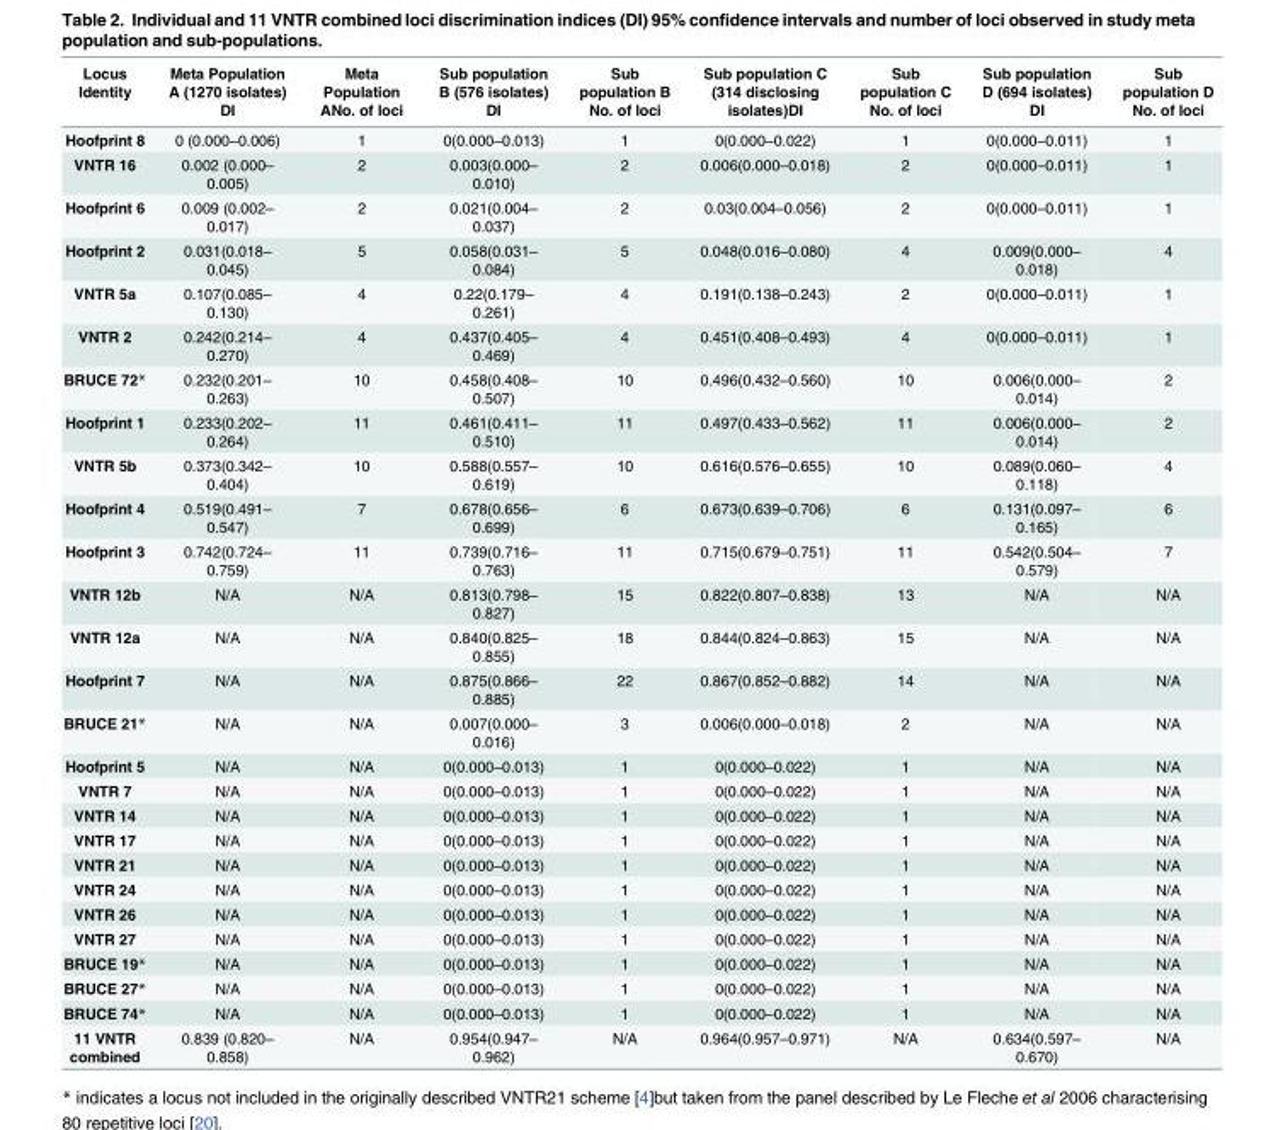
<table><thead><tr><td>Locus Identity</td><td>Meta Population A (1270 isolates) DI</td><td>Meta Population ANo. of loci</td><td>Sub population B (576 isolates) DI</td><td>Sub population B No. of loci</td><td>Sub population C (314 disclosing isolates)DI</td><td>Sub population C No. of loci</td><td>Sub population D (694 isolates) DI</td><td>Sub population D No. of loci</td></tr></thead><tbody><tr><td>Hoofprint 8</td><td>0 (0.000–0.006)</td><td>1</td><td>0(0.000–0.013)</td><td>1</td><td>0(0.000–0.022)</td><td>1</td><td>0(0.000–0.011)</td><td>1</td></tr><tr><td>VNTR 16</td><td>0.002 (0.000– 0.005)</td><td>2</td><td>0.003(0.000– 0.010)</td><td>2</td><td>0.006(0.000–0.018)</td><td>2</td><td>0(0.000–0.011)</td><td>1</td></tr><tr><td>Hoofprint 6</td><td>0.009 (0.002– 0.017)</td><td>2</td><td>0.021(0.004– 0.037)</td><td>2</td><td>0.03(0.004–0.056)</td><td>2</td><td>0(0.000–0.011)</td><td>1</td></tr><tr><td>Hoofprint 2</td><td>0.031(0.018– 0.045)</td><td>5</td><td>0.058(0.031– 0.084)</td><td>5</td><td>0.048(0.016–0.080)</td><td>4</td><td>0.009(0.000– 0.018)</td><td>4</td></tr><tr><td>VNTR 5a</td><td>0.107(0.085– 0.130)</td><td>4</td><td>0.22(0.179– 0.261)</td><td>4</td><td>0.191(0.138–0.243)</td><td>2</td><td>0(0.000–0.011)</td><td>1</td></tr><tr><td>VNTR 2</td><td>0.242(0.214– 0.270)</td><td>4</td><td>0.437(0.405– 0.469)</td><td>4</td><td>0.451(0.408–0.493)</td><td>4</td><td>0(0.000–0.011)</td><td>1</td></tr><tr><td>BRUCE 72*</td><td>0.232(0.201– 0.263)</td><td>10</td><td>0.458(0.408– 0.507)</td><td>10</td><td>0.496(0.432–0.560)</td><td>10</td><td>0.006(0.000– 0.014)</td><td>2</td></tr><tr><td>Hoofprint 1</td><td>0.233(0.202– 0.264)</td><td>11</td><td>0.461(0.411– 0.510)</td><td>11</td><td>0.497(0.433–0.562)</td><td>11</td><td>0.006(0.000– 0.014)</td><td>2</td></tr><tr><td>VNTR 5b</td><td>0.373(0.342– 0.404)</td><td>10</td><td>0.588(0.557– 0.619)</td><td>10</td><td>0.616(0.576–0.655)</td><td>10</td><td>0.089(0.060– 0.118)</td><td>4</td></tr><tr><td>Hoofprint 4</td><td>0.519(0.491– 0.547)</td><td>7</td><td>0.678(0.656– 0.699)</td><td>6</td><td>0.673(0.639–0.706)</td><td>6</td><td>0.131(0.097– 0.165)</td><td>6</td></tr><tr><td>Hoofprint 3</td><td>0.742(0.724– 0.759)</td><td>11</td><td>0.739(0.716– 0.763)</td><td>11</td><td>0.715(0.679–0.751)</td><td>11</td><td>0.542(0.504– 0.579)</td><td>7</td></tr><tr><td>VNTR 12b</td><td>N/A</td><td>N/A</td><td>0.813(0.798– 0.827)</td><td>15</td><td>0.822(0.807–0.838)</td><td>13</td><td>N/A</td><td>N/A</td></tr><tr><td>VNTR 12a</td><td>N/A</td><td>N/A</td><td>0.840(0.825– 0.855)</td><td>18</td><td>0.844(0.824–0.863)</td><td>15</td><td>N/A</td><td>N/A</td></tr><tr><td>Hoofprint 7</td><td>N/A</td><td>N/A</td><td>0.875(0.866– 0.885)</td><td>22</td><td>0.867(0.852–0.882)</td><td>14</td><td>N/A</td><td>N/A</td></tr><tr><td>BRUCE 21*</td><td>N/A</td><td>N/A</td><td>0.007(0.000– 0.016)</td><td>3</td><td>0.006(0.000–0.018)</td><td>2</td><td>N/A</td><td>N/A</td></tr><tr><td>Hoofprint 5</td><td>N/A</td><td>N/A</td><td>0(0.000–0.013)</td><td>1</td><td>0(0.000–0.022)</td><td>1</td><td>N/A</td><td>N/A</td></tr><tr><td>VNTR 7</td><td>N/A</td><td>N/A</td><td>0(0.000–0.013)</td><td>1</td><td>0(0.000–0.022)</td><td>1</td><td>N/A</td><td>N/A</td></tr><tr><td>VNTR 14</td><td>N/A</td><td>N/A</td><td>0(0.000–0.013)</td><td>1</td><td>0(0.000–0.022)</td><td>1</td><td>N/A</td><td>N/A</td></tr><tr><td>VNTR 17</td><td>N/A</td><td>N/A</td><td>0(0.000–0.013)</td><td>1</td><td>0(0.000–0.022)</td><td>1</td><td>N/A</td><td>N/A</td></tr><tr><td>VNTR 21</td><td>N/A</td><td>N/A</td><td>0(0.000–0.013)</td><td>1</td><td>0(0.000–0.022)</td><td>1</td><td>N/A</td><td>N/A</td></tr><tr><td>VNTR 24</td><td>N/A</td><td>N/A</td><td>0(0.000–0.013)</td><td>1</td><td>0(0.000–0.022)</td><td>1</td><td>N/A</td><td>N/A</td></tr><tr><td>VNTR 26</td><td>N/A</td><td>N/A</td><td>0(0.000–0.013)</td><td>1</td><td>0(0.000–0.022)</td><td>1</td><td>N/A</td><td>N/A</td></tr><tr><td>VNTR 27</td><td>N/A</td><td>N/A</td><td>0(0.000–0.013)</td><td>1</td><td>0(0.000–0.022)</td><td>1</td><td>N/A</td><td>N/A</td></tr><tr><td>BRUCE 19*</td><td>N/A</td><td>N/A</td><td>0(0.000–0.013)</td><td>1</td><td>0(0.000–0.022)</td><td>1</td><td>N/A</td><td>N/A</td></tr><tr><td>BRUCE 27*</td><td>N/A</td><td>N/A</td><td>0(0.000–0.013)</td><td>1</td><td>0(0.000–0.022)</td><td>1</td><td>N/A</td><td>N/A</td></tr><tr><td>BRUCE 74*</td><td>N/A</td><td>N/A</td><td>0(0.000–0.013)</td><td>1</td><td>0(0.000–0.022)</td><td>1</td><td>N/A</td><td>N/A</td></tr><tr><td>11 VNTR combined</td><td>0.839 (0.820– 0.858)</td><td>N/A</td><td>0.954(0.947– 0.962)</td><td>N/A</td><td>0.964(0.957–0.971)</td><td>N/A</td><td>0.634(0.597– 0.670)</td><td>N/A</td></tr></tbody></table>